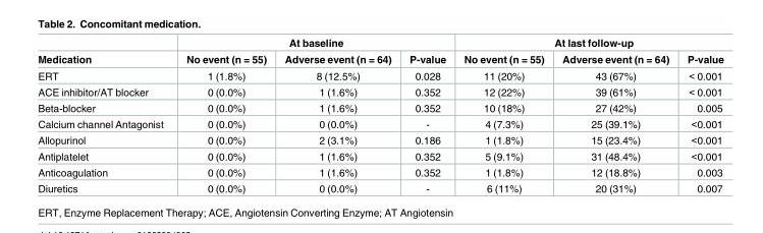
<table><thead><tr><td rowspan="2">Medication</td><td colspan="3">At baseline</td><td colspan="3">At last follow-up</td></tr><tr><td>No event (n = 55)</td><td>Adverse event (n = 64)</td><td>P-value</td><td>No event (n = 55)</td><td>Adverse event (n = 64)</td><td>P-value</td></tr></thead><tbody><tr><td>ERT</td><td>1 (1.8%)</td><td>8 (12.5%)</td><td>0.028</td><td>11 (20%)</td><td>43 (67%)</td><td>&lt; 0.001</td></tr><tr><td>ACE inhibitor/AT blocker</td><td>0 (0.0%)</td><td>1 (1.6%)</td><td>0.352</td><td>12 (22%)</td><td>39 (61%)</td><td>&lt; 0.001</td></tr><tr><td>Beta-blocker</td><td>0 (0.0%)</td><td>1 (1.6%)</td><td>0.352</td><td>10 (18%)</td><td>27 (42%)</td><td>0.005</td></tr><tr><td>Calcium channel Antagonist</td><td>0 (0.0%)</td><td>0 (0.0%)</td><td>-</td><td>4 (7.3%)</td><td>25 (39.1%)</td><td>&lt;0.001</td></tr><tr><td>Allopurinol</td><td>0 (0.0%)</td><td>2 (3.1%)</td><td>0.186</td><td>1 (1.8%)</td><td>15 (23.4%)</td><td>&lt;0.001</td></tr><tr><td>Antiplatelet</td><td>0 (0.0%)</td><td>1 (1.6%)</td><td>0.352</td><td>5 (9.1%)</td><td>31 (48.4%)</td><td>&lt;0.001</td></tr><tr><td>Anticoagulation</td><td>0 (0.0%)</td><td>1 (1.6%)</td><td>0.352</td><td>1 (1.8%)</td><td>12 (18.8%)</td><td>0.003</td></tr><tr><td>Diuretics</td><td>0 (0.0%)</td><td>0 (0.0%)</td><td>-</td><td>6 (11%)</td><td>20 (31%)</td><td>0.007</td></tr></tbody></table>